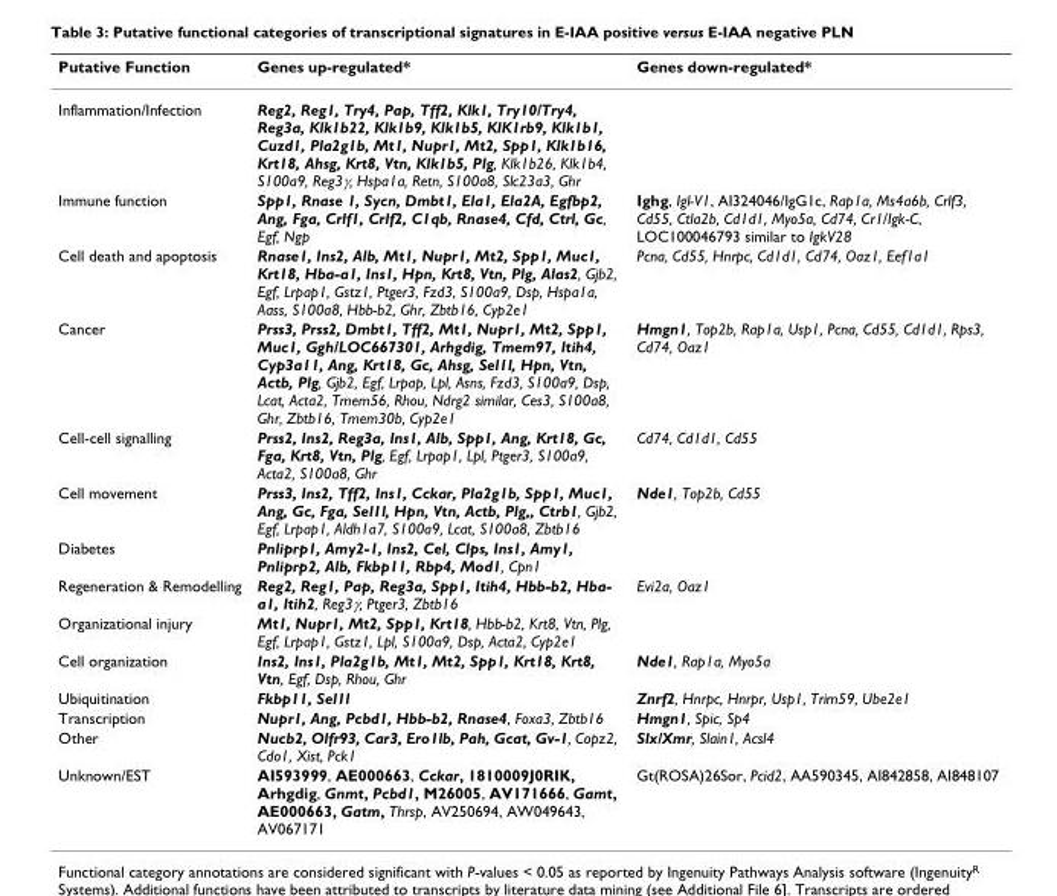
<table><thead><tr><td>Putative Function</td><td>Genes up-regulated*</td><td>Genes down-regulated*</td></tr></thead><tbody><tr><td>Inflammation/Infection</td><td>Reg2, Reg1, Try4, Pap, Tff2, Klk1, Try10/Try4, Reg3a, Klk1b22, Klk1b9, Klk1b5, KlK1rb9, Klk1b1, Cuzd1, Pla2g1b, Mt1, Nupr1, Mt2, Spp1, Klk1b16, Krt18, Ahsg, Krt8, Vtn, Klk1b5, Plg, Klk1b26, Klk1b4, S100a9, Reg3γ, Hspa1a, Retn, S100a8, Slc23a3, Ghr</td><td></td></tr><tr><td>Immune function</td><td>Spp1, Rnase 1, Sycn, Dmbt1, Ela1, Ela2A, Egfbp2, Ang, Fga, Crlf1, Crlf2, C1qb, Rnase4, Cfd, Ctrl, Gc, Egf, Ngp</td><td>Ighg, Igl-V1, AI324046/IgG1c, Rap1a, Ms4a6b, Crlf3, Cd55, Ctla2b, Cd1d1, Myo5a, Cd74, Cr1/Igk-C, LOC100046793 similar to IgkV28</td></tr><tr><td>Cell death and apoptosis</td><td>Rnase1, Ins2, Alb, Mt1, Nupr1, Mt2, Spp1, Muc1, Krt18, Hba-a1, Ins1, Hpn, Krt8, Vtn, Plg, Alas2, Gjb2, Egf, Lrpap1, Gstz1, Ptger3, Fzd3, S100a9, Dsp, Hspa1a, Aass, S100a8, Hbb-b2, Ghr, Zbtb16, Cyp2e1</td><td>Pcna, Cd55, Hnrpc, Cd1d1, Cd74, Oaz1, Eef1a1</td></tr><tr><td>Cancer</td><td>Prss3, Prss2, Dmbt1, Tff2, Mt1, Nupr1, Mt2, Spp1, Muc1, Ggh/LOC667301, Arhgdig, Tmem97, Itih4, Cyp3a11, Ang, Krt18, Gc, Ahsg, Sel1l, Hpn, Vtn, Actb, Plg, Gjb2, Egf, Lrpap, Lpl, Asns, Fzd3, S100a9, Dsp, Lcat, Acta2, Tmem56, Rhou, Ndrg2 similar, Ces3, S100a8, Ghr, Zbtb16, Tmem30b, Cyp2e1</td><td>Hmgn1, Top2b, Rap1a, Usp1, Pcna, Cd55, Cd1d1, Rps3, Cd74, Oaz1</td></tr><tr><td>Cell-cell signalling</td><td>Prss2, Ins2, Reg3a, Ins1, Alb, Spp1, Ang, Krt18, Gc, Fga, Krt8, Vtn, Plg, Egf, Lrpap1, Lpl, Ptger3, S100a9, Acta2, S100a8, Ghr</td><td>Cd74, Cd1d1, Cd55</td></tr><tr><td>Cell movement</td><td>Prss3, Ins2, Tff2, Ins1, Cckar, Pla2g1b, Spp1, Muc1, Ang, Gc, Fga, Sel1l, Hpn, Vtn, Actb, Plg,, Ctrb1, Gjb2, Egf, Lrpap1, Aldh1a7, S100a9, Lcat, S100a8, Zbtb16</td><td>Nde1, Top2b, Cd55</td></tr><tr><td>Diabetes</td><td>Pnliprp1, Amy2-1, Ins2, Cel, Clps, Ins1, Amy1, Pnliprp2, Alb, Fkbp11, Rbp4, Mod1, Cpn1</td><td></td></tr><tr><td>Regeneration &amp; Remodelling</td><td>Reg2, Reg1, Pap, Reg3a, Spp1, Itih4, Hbb-b2, Hba- a1, Itih2, Reg3γ, Ptger3, Zbtb16</td><td>Evi2a, Oaz1</td></tr><tr><td>Organizational injury</td><td>Mt1, Nupr1, Mt2, Spp1, Krt18, Hbb-b2, Krt8, Vtn, Plg, Egf, Lrpap1, Gstz1, Lpl, S100a9, Dsp, Acta2, Cyp2e1</td><td></td></tr><tr><td>Cell organization</td><td>Ins2, Ins1, Pla2g1b, Mt1, Mt2, Spp1, Krt18, Krt8, Vtn, Egf, Dsp, Rhou, Ghr</td><td>Nde1, Rap1a, Myo5a</td></tr><tr><td>Ubiquitination</td><td>Fkbp11, Sel1l</td><td>Znrf2, Hnrpc, Hnrpr, Usp1, Trim59, Ube2e1</td></tr><tr><td>Transcription</td><td>Nupr1, Ang, Pcbd1, Hbb-b2, Rnase4, Foxa3, Zbtb16</td><td>Hmgn1, Spic, Sp4</td></tr><tr><td>Other</td><td>Nucb2, Olfr93, Car3, Ero1lb, Pah, Gcat, Gv-1, Copz2, Cdo1, Xist, Pck1</td><td>Slx/Xmr, Slain1, Acsl4</td></tr><tr><td>Unknown/EST</td><td>AI593999, AE000663, Cckar, 1810009J0RIK, Arhgdig, Gnmt, Pcbd1, M26005, AV171666, Gamt, AE000663, Gatm, Thrsp, AV250694, AW049643, AV067171</td><td>Gt(ROSA)26Sor, Pcid2, AA590345, AI842858, AI848107</td></tr></tbody></table>